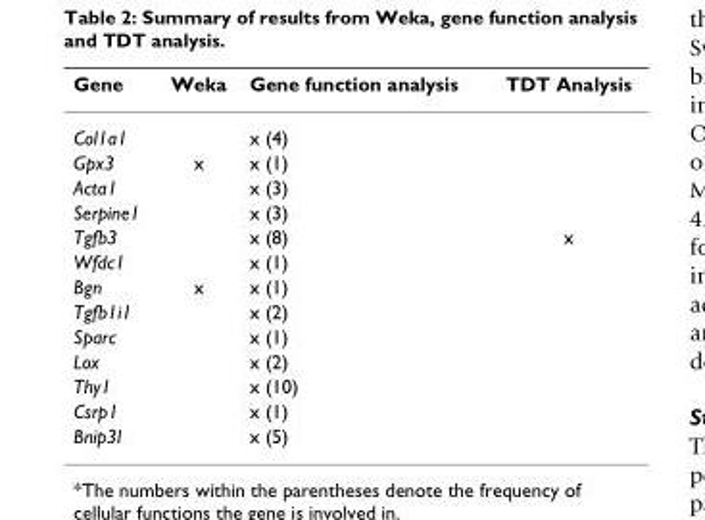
<table><thead><tr><td>Gene</td><td>Weka</td><td>Gene function analysis</td><td>TDT Analysis</td></tr></thead><tbody><tr><td>Col1a1</td><td></td><td>x (4)</td><td></td></tr><tr><td>Gpx3</td><td>x</td><td>x (1)</td><td></td></tr><tr><td>Acta1</td><td></td><td>x (3)</td><td></td></tr><tr><td>Serpine1</td><td></td><td>x (3)</td><td></td></tr><tr><td>Tgfb3</td><td></td><td>x (8)</td><td>x</td></tr><tr><td>Wfdc1</td><td></td><td>x (1)</td><td></td></tr><tr><td>Bgn</td><td>x</td><td>x (1)</td><td></td></tr><tr><td>Tgfb1i1</td><td></td><td>x (2)</td><td></td></tr><tr><td>Sparc</td><td></td><td>x (1)</td><td></td></tr><tr><td>Lox</td><td></td><td>x (2)</td><td></td></tr><tr><td>Thy1</td><td></td><td>x (10)</td><td></td></tr><tr><td>Csrp1</td><td></td><td>x (1)</td><td></td></tr><tr><td>Bnip3l</td><td></td><td>x (5)</td><td></td></tr></tbody></table>